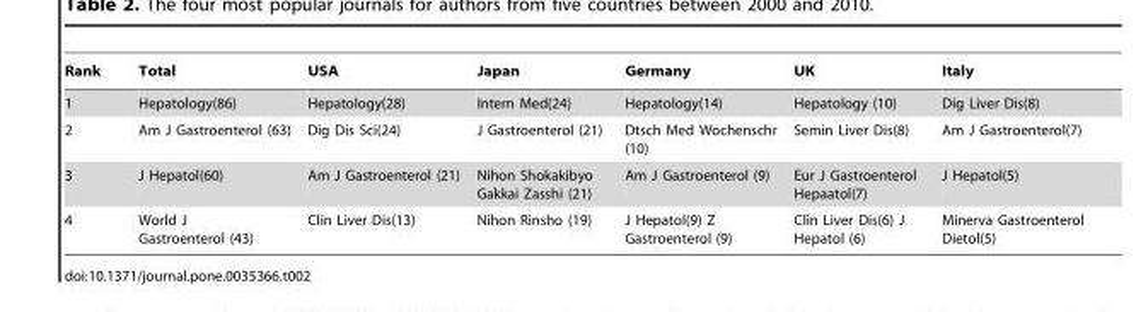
<table><thead><tr><td>Rank</td><td>Total</td><td>USA</td><td>Japan</td><td>Germany</td><td>UK</td><td>Italy</td></tr></thead><tbody><tr><td>1</td><td>Hepatology(86)</td><td>Hepatology(28)</td><td>Intern Med(24)</td><td>Hepatology(14)</td><td>Hepatology (10)</td><td>Dig Liver Dis(8)</td></tr><tr><td>2</td><td>Am J Gastroenterol (63)</td><td>Dig Dis Sci(24)</td><td>J Gastroenterol (21)</td><td>Dtsch Med Wochenschr (10)</td><td>Semin Liver Dis(8)</td><td>Am J Gastroenterol(7)</td></tr><tr><td>3</td><td>J Hepatol(60)</td><td>Am J Gastroenterol (21)</td><td>Nihon Shokakibyo Gakkai Zasshi (21)</td><td>Am J Gastroenterol (9)</td><td>Eur J Gastroenterol Hepaatol(7)</td><td>J Hepatol(5)</td></tr><tr><td>4</td><td>World J Gastroenterol (43)</td><td>Clin Liver Dis(13)</td><td>Nihon Rinsho (19)</td><td>J Hepatol(9) Z Gastroenterol (9)</td><td>Clin Liver Dis(6) J Hepatol (6)</td><td>Minerva Gastroenterol Dietol(5)</td></tr></tbody></table>